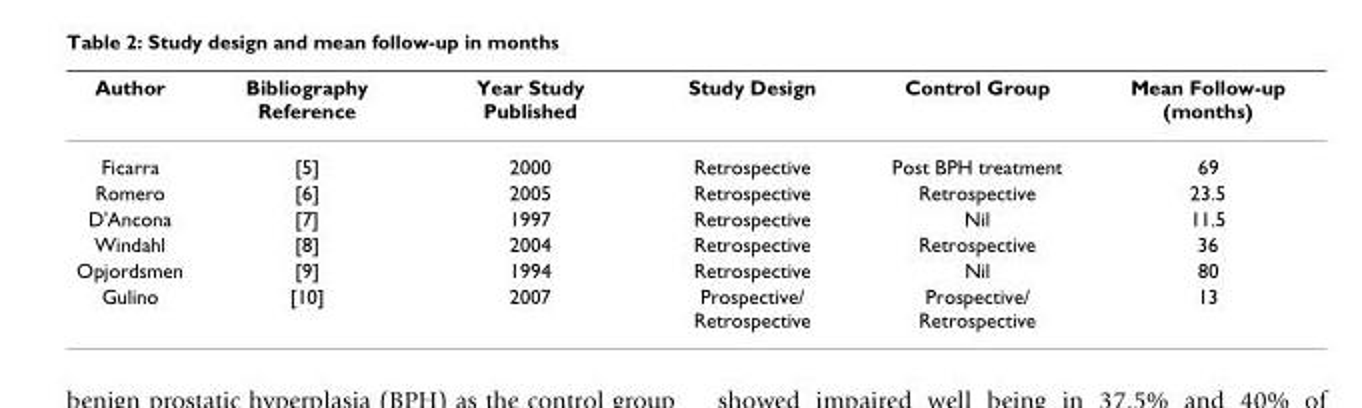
<table><thead><tr><td>Author</td><td>Bibliography Reference</td><td>Year Study Published</td><td>Study Design</td><td>Control Group</td><td>Mean Follow-up (months)</td></tr></thead><tbody><tr><td>Ficarra</td><td>[5]</td><td>2000</td><td>Retrospective</td><td>Post BPH treatment</td><td>69</td></tr><tr><td>Romero</td><td>[6]</td><td>2005</td><td>Retrospective</td><td>Retrospective</td><td>23.5</td></tr><tr><td>D&#x27;Ancona</td><td>[7]</td><td>1997</td><td>Retrospective</td><td>Nil</td><td>11.5</td></tr><tr><td>Windahl</td><td>[8]</td><td>2004</td><td>Retrospective</td><td>Retrospective</td><td>36</td></tr><tr><td>Opjordsmen</td><td>[9]</td><td>1994</td><td>Retrospective</td><td>Nil</td><td>80</td></tr><tr><td>Gulino</td><td>[10]</td><td>2007</td><td>Prospective/ Retrospective</td><td>Prospective/ Retrospective</td><td>13</td></tr></tbody></table>